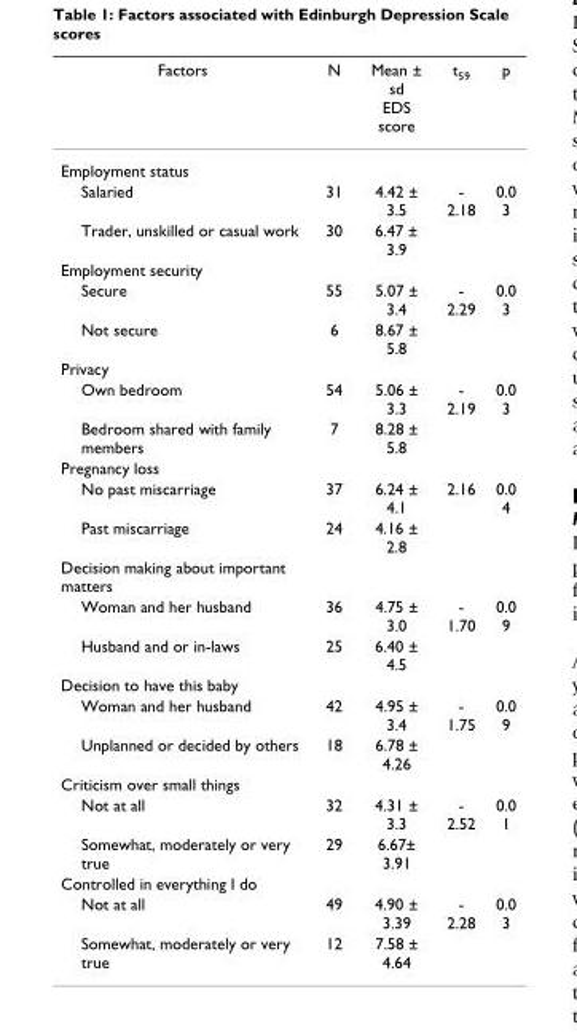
<table><thead><tr><td>Factors</td><td>N</td><td>Mean ± sd EDS score</td><td>t<sub>59</sub></td><td>p</td></tr></thead><tbody><tr><td colspan="5">Employment status</td></tr><tr><td>Salaried</td><td>31</td><td>4.42 ± 3.5</td><td>- 2.18</td><td>0.0 3</td></tr><tr><td>Trader, unskilled or casual work</td><td>30</td><td>6.47 ± 3.9</td><td></td><td></td></tr><tr><td colspan="5">Employment security</td></tr><tr><td>Secure</td><td>55</td><td>5.07 ± 3.4</td><td>- 2.29</td><td>0.0 3</td></tr><tr><td>Not secure</td><td>6</td><td>8.67 ± 5.8</td><td></td><td></td></tr><tr><td colspan="5">Privacy</td></tr><tr><td>Own bedroom</td><td>54</td><td>5.06 ± 3.3</td><td>- 2.19</td><td>0.0 3</td></tr><tr><td>Bedroom shared with family members</td><td>7</td><td>8.28 ± 5.8</td><td></td><td></td></tr><tr><td colspan="5">Pregnancy loss</td></tr><tr><td>No past miscarriage</td><td>37</td><td>6.24 ± 4.1</td><td>2.16</td><td>0.0 4</td></tr><tr><td>Past miscarriage</td><td>24</td><td>4.16 ± 2.8</td><td></td><td></td></tr><tr><td colspan="5">Decision making about important matters</td></tr><tr><td>Woman and her husband</td><td>36</td><td>4.75 ± 3.0</td><td>- 1.70</td><td>0.0 9</td></tr><tr><td>Husband and or in-laws</td><td>25</td><td>6.40 ± 4.5</td><td></td><td></td></tr><tr><td colspan="5">Decision to have this baby</td></tr><tr><td>Woman and her husband</td><td>42</td><td>4.95 ± 3.4</td><td>- 1.75</td><td>0.0 9</td></tr><tr><td>Unplanned or decided by others</td><td>18</td><td>6.78 ± 4.26</td><td></td><td></td></tr><tr><td colspan="5">Criticism over small things</td></tr><tr><td>Not at all</td><td>32</td><td>4.31 ± 3.3</td><td>- 2.52</td><td>0.0 1</td></tr><tr><td>Somewhat, moderately or very true</td><td>29</td><td>6.67± 3.91</td><td></td><td></td></tr><tr><td colspan="5">Controlled in everything I do</td></tr><tr><td>Not at all</td><td>49</td><td>4.90 ± 3.39</td><td>- 2.28</td><td>0.0 3</td></tr><tr><td>Somewhat, moderately or very true</td><td>12</td><td>7.58 ± 4.64</td><td></td><td></td></tr></tbody></table>